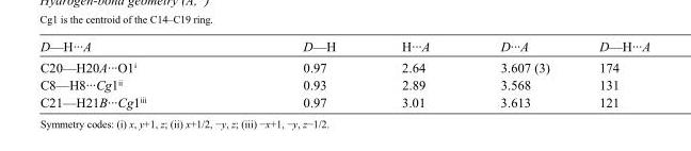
<table><tbody><tr><td>D—H···A</td><td>D—H</td><td>H···A</td><td>D···A</td><td>D—H···A</td></tr><tr><td>C20—H20A···O1<sup>i</sup></td><td>0.97</td><td>2.64</td><td>3.607 (3)</td><td>174</td></tr><tr><td>C8—H8···Cg1<sup>ii</sup></td><td>0.93</td><td>2.89</td><td>3.568</td><td>131</td></tr><tr><td>C21—H21B···Cg1<sup>iii</sup></td><td>0.97</td><td>3.01</td><td>3.613</td><td>121</td></tr></tbody></table>